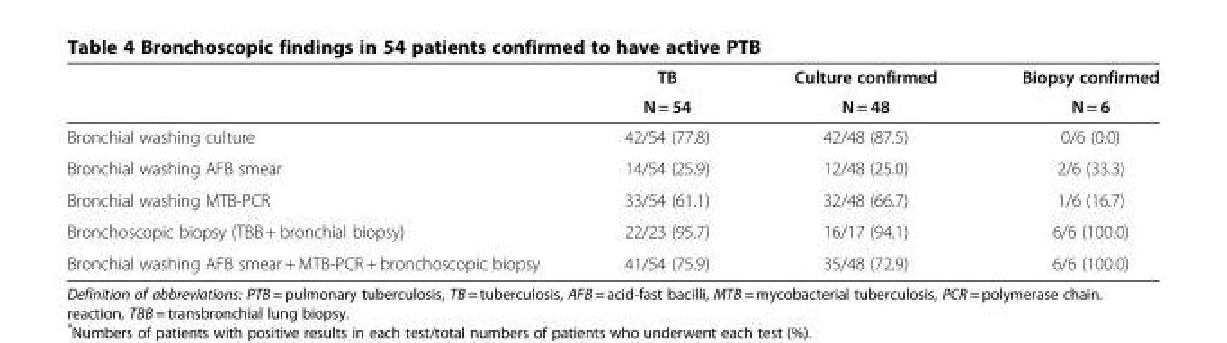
<table><thead><tr><td rowspan="2"></td><td rowspan="2">TB N = 54</td><td rowspan="2">Culture confirmed N = 48</td><td rowspan="2">Biopsy confirmed N = 6</td></tr><tr></tr></thead><tbody><tr><td>Bronchial washing culture</td><td>42/54 (77.8)</td><td>42/48 (87.5)</td><td>0/6 (0.0)</td></tr><tr><td>Bronchial washing AFB smear</td><td>14/54 (25.9)</td><td>12/48 (25.0)</td><td>2/6 (33.3)</td></tr><tr><td>Bronchial washing MTB-PCR</td><td>33/54 (61.1)</td><td>32/48 (66.7)</td><td>1/6 (16.7)</td></tr><tr><td>Bronchoscopic biopsy (TBB + bronchial biopsy)</td><td>22/23 (95.7)</td><td>16/17 (94.1)</td><td>6/6 (100.0)</td></tr><tr><td>Bronchial washing AFB smear + MTB-PCR + bronchoscopic biopsy</td><td>41/54 (75.9)</td><td>35/48 (72.9)</td><td>6/6 (100.0)</td></tr></tbody></table>